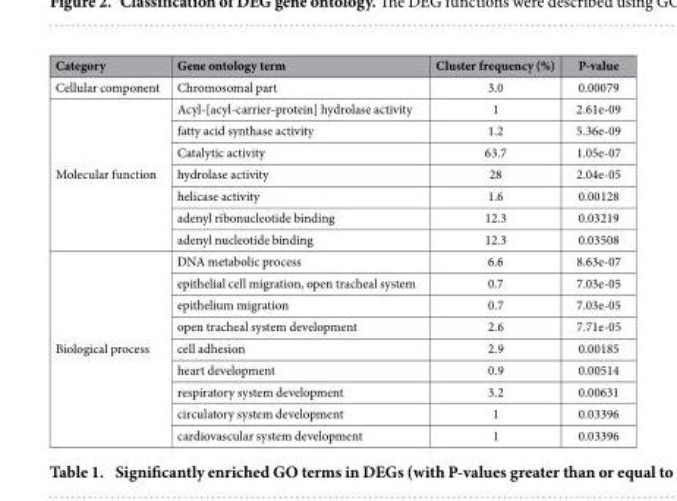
<table><thead><tr><td>Category</td><td>Gene ontology term</td><td>Cluster frequency (%)</td><td>P-value</td></tr></thead><tbody><tr><td>Cellular component</td><td>Chromosomal part</td><td>3.0</td><td>0.00079</td></tr><tr><td rowspan="7">Molecular function</td><td>Acyl-[acyl-carrier-protein] hydrolase activity</td><td>1</td><td>2.61e-09</td></tr><tr><td>fatty acid synthase activity</td><td>1.2</td><td>5.36e-09</td></tr><tr><td>Catalytic activity</td><td>63.7</td><td>1.05e-07</td></tr><tr><td>hydrolase activity</td><td>28</td><td>2.04e-05</td></tr><tr><td>helicase activity</td><td>1.6</td><td>0.00128</td></tr><tr><td>adenyl ribonucleotide binding</td><td>12.3</td><td>0.03219</td></tr><tr><td>adenyl nucleotide binding</td><td>12.3</td><td>0.03508</td></tr><tr><td rowspan="9">Biological process</td><td>DNA metabolic process</td><td>6.6</td><td>8.63e-07</td></tr><tr><td>epithelial cell migration, open tracheal system</td><td>0.7</td><td>7.03e-05</td></tr><tr><td>epithelium migration</td><td>0.7</td><td>7.03e-05</td></tr><tr><td>open tracheal system development</td><td>2.6</td><td>7.71e-05</td></tr><tr><td>cell adhesion</td><td>2.9</td><td>0.00185</td></tr><tr><td>heart development</td><td>0.9</td><td>0.00514</td></tr><tr><td>respiratory system development</td><td>3.2</td><td>0.00631</td></tr><tr><td>circulatory system development</td><td>1</td><td>0.03396</td></tr><tr><td>cardiovascular system development</td><td>1</td><td>0.03396</td></tr></tbody></table>